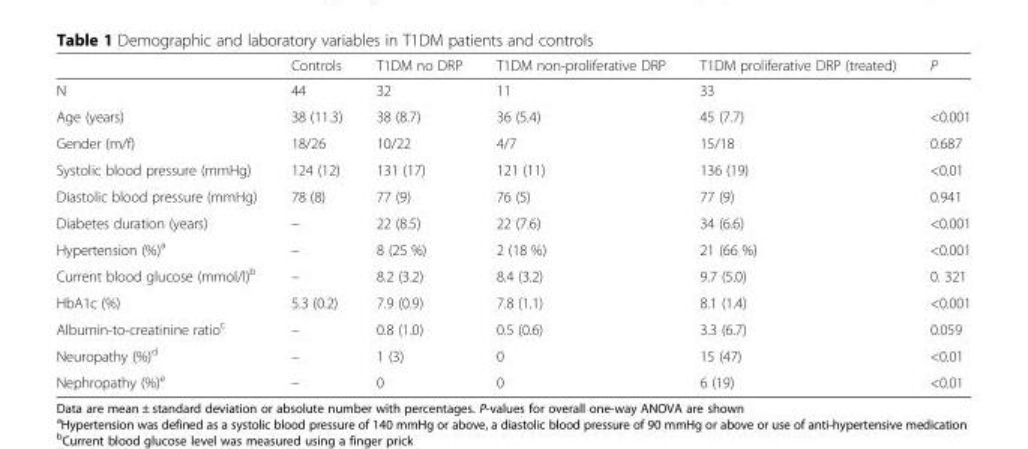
<table><thead><tr><td></td><td>Controls</td><td>T1DM no DRP</td><td>T1DM non-proliferative DRP</td><td>T1DM proliferative DRP (treated)</td><td>P</td></tr></thead><tbody><tr><td>N</td><td>44</td><td>32</td><td>11</td><td>33</td><td></td></tr><tr><td>Age (years)</td><td>38 (11.3)</td><td>38 (8.7)</td><td>36 (5.4)</td><td>45 (7.7)</td><td>&lt;0.001</td></tr><tr><td>Gender (m/f)</td><td>18/26</td><td>10/22</td><td>4/7</td><td>15/18</td><td>0.687</td></tr><tr><td>Systolic blood pressure (mmHg)</td><td>124 (12)</td><td>131 (17)</td><td>121 (11)</td><td>136 (19)</td><td>&lt;0.01</td></tr><tr><td>Diastolic blood pressure (mmHg)</td><td>78 (8)</td><td>77 (9)</td><td>76 (5)</td><td>77 (9)</td><td>0.941</td></tr><tr><td>Diabetes duration (years)</td><td>–</td><td>22 (8.5)</td><td>22 (7.6)</td><td>34 (6.6)</td><td>&lt;0.001</td></tr><tr><td>Hypertension (%)<sup>a</sup></td><td>–</td><td>8 (25 %)</td><td>2 (18 %)</td><td>21 (66 %)</td><td>&lt;0.001</td></tr><tr><td>Current blood glucose (mmol/l)<sup>b</sup></td><td>–</td><td>8.2 (3.2)</td><td>8.4 (3.2)</td><td>9.7 (5.0)</td><td>0. 321</td></tr><tr><td>HbA1c (%)</td><td>5.3 (0.2)</td><td>7.9 (0.9)</td><td>7.8 (1.1)</td><td>8.1 (1.4)</td><td>&lt;0.001</td></tr><tr><td>Albumin-to-creatinine ratio<sup>c</sup></td><td>–</td><td>0.8 (1.0)</td><td>0.5 (0.6)</td><td>3.3 (6.7)</td><td>0.059</td></tr><tr><td>Neuropathy (%)<sup>d</sup></td><td>–</td><td>1 (3)</td><td>0</td><td>15 (47)</td><td>&lt;0.01</td></tr><tr><td>Nephropathy (%)<sup>e</sup></td><td>–</td><td>0</td><td>0</td><td>6 (19)</td><td>&lt;0.01</td></tr></tbody></table>